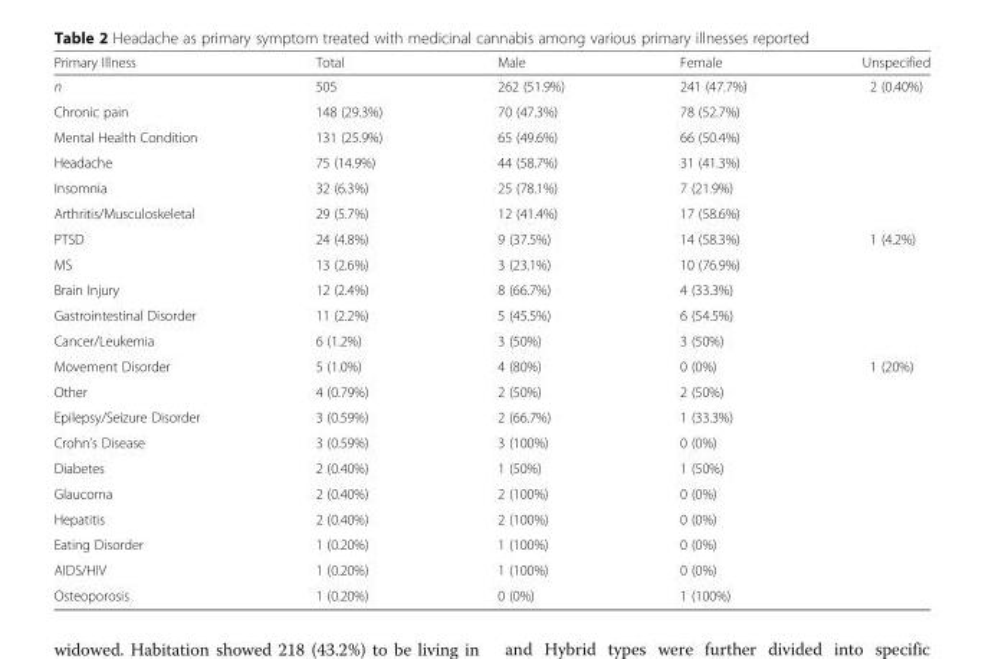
<table><thead><tr><td>Primary Illness</td><td>Total</td><td>Male</td><td>Female</td><td>Unspecified</td></tr></thead><tbody><tr><td>n</td><td>505</td><td>262 (51.9%)</td><td>241 (47.7%)</td><td>2 (0.40%)</td></tr><tr><td>Chronic pain</td><td>148 (29.3%)</td><td>70 (47.3%)</td><td>78 (52.7%)</td><td></td></tr><tr><td>Mental Health Condition</td><td>131 (25.9%)</td><td>65 (49.6%)</td><td>66 (50.4%)</td><td></td></tr><tr><td>Headache</td><td>75 (14.9%)</td><td>44 (58.7%)</td><td>31 (41.3%)</td><td></td></tr><tr><td>Insomnia</td><td>32 (6.3%)</td><td>25 (78.1%)</td><td>7 (21.9%)</td><td></td></tr><tr><td>Arthritis/Musculoskeletal</td><td>29 (5.7%)</td><td>12 (41.4%)</td><td>17 (58.6%)</td><td></td></tr><tr><td>PTSD</td><td>24 (4.8%)</td><td>9 (37.5%)</td><td>14 (58.3%)</td><td>1 (4.2%)</td></tr><tr><td>MS</td><td>13 (2.6%)</td><td>3 (23.1%)</td><td>10 (76.9%)</td><td></td></tr><tr><td>Brain Injury</td><td>12 (2.4%)</td><td>8 (66.7%)</td><td>4 (33.3%)</td><td></td></tr><tr><td>Gastrointestinal Disorder</td><td>11 (2.2%)</td><td>5 (45.5%)</td><td>6 (54.5%)</td><td></td></tr><tr><td>Cancer/Leukemia</td><td>6 (1.2%)</td><td>3 (50%)</td><td>3 (50%)</td><td></td></tr><tr><td>Movement Disorder</td><td>5 (1.0%)</td><td>4 (80%)</td><td>0 (0%)</td><td>1 (20%)</td></tr><tr><td>Other</td><td>4 (0.79%)</td><td>2 (50%)</td><td>2 (50%)</td><td></td></tr><tr><td>Epilepsy/Seizure Disorder</td><td>3 (0.59%)</td><td>2 (66.7%)</td><td>1 (33.3%)</td><td></td></tr><tr><td>Crohn’s Disease</td><td>3 (0.59%)</td><td>3 (100%)</td><td>0 (0%)</td><td></td></tr><tr><td>Diabetes</td><td>2 (0.40%)</td><td>1 (50%)</td><td>1 (50%)</td><td></td></tr><tr><td>Glaucoma</td><td>2 (0.40%)</td><td>2 (100%)</td><td>0 (0%)</td><td></td></tr><tr><td>Hepatitis</td><td>2 (0.40%)</td><td>2 (100%)</td><td>0 (0%)</td><td></td></tr><tr><td>Eating Disorder</td><td>1 (0.20%)</td><td>1 (100%)</td><td>0 (0%)</td><td></td></tr><tr><td>AIDS/HIV</td><td>1 (0.20%)</td><td>1 (100%)</td><td>0 (0%)</td><td></td></tr><tr><td>Osteoporosis</td><td>1 (0.20%)</td><td>0 (0%)</td><td>1 (100%)</td><td></td></tr></tbody></table>